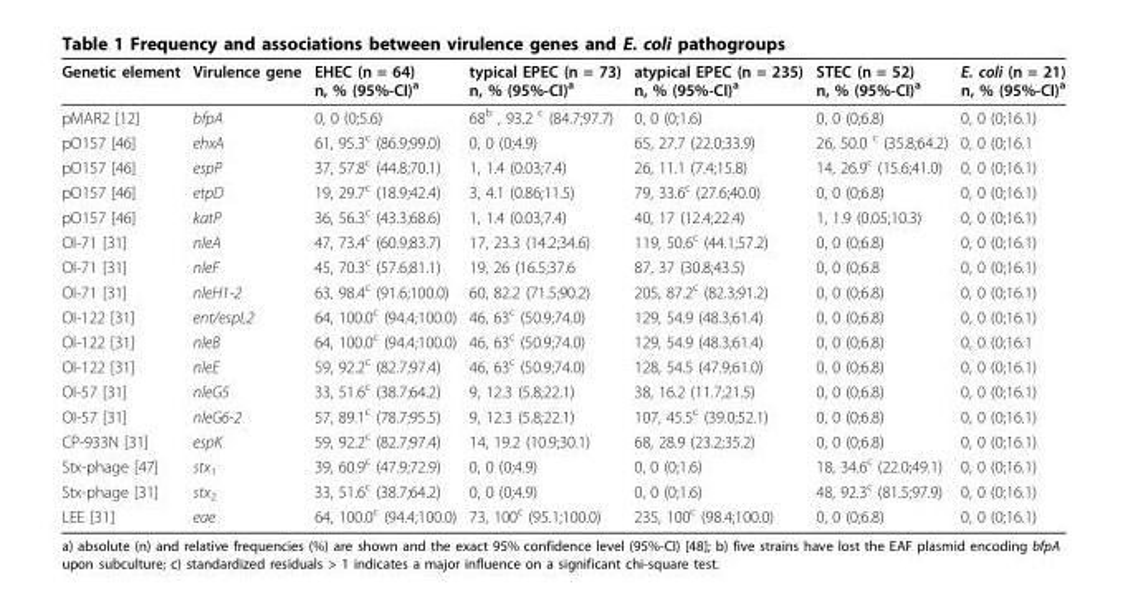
<table><thead><tr><td>Genetic element</td><td>Virulence gene</td><td>EHEC (n = 64) n, % (95%-CI)<sup>a</sup></td><td>typical EPEC (n = 73) n, % (95%-CI)<sup>a</sup></td><td>atypical EPEC (n = 235) n, % (95%-CI)<sup>a</sup></td><td>STEC (n = 52) n, % (95%-CI)<sup>a</sup></td><td>E. coli (n = 21) n, % (95%-CI)<sup>a</sup></td></tr></thead><tbody><tr><td>pMAR2 [12]</td><td>bfpA</td><td>0, 0 (0;5.6)</td><td>68<sup>b</sup> , 93.2 <sup>c</sup> (84.7;97.7)</td><td>0, 0 (0;1.6)</td><td>0, 0 (0;6.8)</td><td>0, 0 (0;16.1)</td></tr><tr><td>pO157 [46]</td><td>ehxA</td><td>61, 95.3<sup>c</sup> (86.9;99.0)</td><td>0, 0 (0;4.9)</td><td>65, 27.7 (22.0;33.9)</td><td>26, 50.0 <sup>c</sup> (35.8;64.2)</td><td>0, 0 (0;16.1</td></tr><tr><td>pO157 [46]</td><td>espP</td><td>37, 57.8<sup>c</sup> (44.8;70.1)</td><td>1, 1.4 (0.03;7.4)</td><td>26, 11.1 (7.4;15.8)</td><td>14, 26.9<sup>c</sup> (15.6;41.0)</td><td>0, 0 (0;16.1)</td></tr><tr><td>pO157 [46]</td><td>etpD</td><td>19, 29.7<sup>c</sup> (18.9;42.4)</td><td>3, 4.1 (0.86;11.5)</td><td>79, 33.6<sup>c</sup> (27.6;40.0)</td><td>0, 0 (0;6.8)</td><td>0, 0 (0;16.1)</td></tr><tr><td>pO157 [46]</td><td>katP</td><td>36, 56.3<sup>c</sup> (43.3;68.6)</td><td>1, 1.4 (0.03;7.4)</td><td>40, 17 (12.4;22.4)</td><td>1, 1.9 (0.05;10.3)</td><td>0, 0 (0;16.1)</td></tr><tr><td>OI-71 [31]</td><td>nleA</td><td>47, 73.4<sup>c</sup> (60.9;83.7)</td><td>17, 23.3 (14.2;34.6)</td><td>119, 50.6<sup>c</sup> (44.1;57.2)</td><td>0, 0 (0;6.8)</td><td>0, 0 (0;16.1)</td></tr><tr><td>OI-71 [31]</td><td>nleF</td><td>45, 70.3<sup>c</sup> (57.6;81.1)</td><td>19, 26 (16.5;37.6</td><td>87, 37 (30.8;43.5)</td><td>0, 0 (0;6.8</td><td>0, 0 (0;16.1)</td></tr><tr><td>OI-71 [31]</td><td>nleH1-2</td><td>63, 98.4<sup>c</sup> (91.6;100.0)</td><td>60, 82.2 (71.5;90.2)</td><td>205, 87.2<sup>c</sup> (82.3;91.2)</td><td>0, 0 (0;6.8)</td><td>0, 0 (0;16.1)</td></tr><tr><td>OI-122 [31]</td><td>ent/espL2</td><td>64, 100.0<sup>c</sup> (94.4;100.0)</td><td>46, 63<sup>c</sup> (50.9;74.0)</td><td>129, 54.9 (48.3;61.4)</td><td>0, 0 (0;6.8)</td><td>0, 0 (0;16.1)</td></tr><tr><td>OI-122 [31]</td><td>nleB</td><td>64, 100.0<sup>c</sup> (94.4;100.0)</td><td>46, 63<sup>c</sup> (50.9;74.0)</td><td>129, 54.9 (48.3;61.4)</td><td>0, 0 (0;6.8)</td><td>0, 0 (0;16.1</td></tr><tr><td>OI-122 [31]</td><td>nleE</td><td>59, 92.2<sup>c</sup> (82.7;97.4)</td><td>46, 63<sup>c</sup> (50.9;74.0)</td><td>128, 54.5 (47.9;61.0)</td><td>0, 0 (0;6.8)</td><td>0, 0 (0;16.1)</td></tr><tr><td>OI-57 [31]</td><td>nleG5</td><td>33, 51.6<sup>c</sup> (38.7;64.2)</td><td>9, 12.3 (5.8;22.1)</td><td>38, 16.2 (11.7;21.5)</td><td>0, 0 (0;6.8)</td><td>0, 0 (0;16.1)</td></tr><tr><td>OI-57 [31]</td><td>nleG6-2</td><td>57, 89.1<sup>c</sup> (78.7;95.5)</td><td>9, 12.3 (5.8;22.1)</td><td>107, 45.5<sup>c</sup> (39.0;52.1)</td><td>0, 0 (0;6.8)</td><td>0, 0 (0;16.1)</td></tr><tr><td>CP-933N [31]</td><td>espK</td><td>59, 92.2<sup>c</sup> (82.7;97.4)</td><td>14, 19.2 (10.9;30.1)</td><td>68, 28.9 (23.2;35.2)</td><td>0, 0 (0;6.8)</td><td>0, 0 (0;16.1)</td></tr><tr><td>Stx-phage [47]</td><td>stx<sub>1</sub></td><td>39, 60.9<sup>c</sup> (47.9;72.9)</td><td>0, 0 (0;4.9)</td><td>0, 0 (0;1.6)</td><td>18, 34.6<sup>c</sup> (22.0;49.1)</td><td>0, 0 (0;16.1)</td></tr><tr><td>Stx-phage [31]</td><td>stx<sub>2</sub></td><td>33, 51.6<sup>c</sup> (38.7;64.2)</td><td>0, 0 (0;4.9)</td><td>0, 0 (0;1.6)</td><td>48, 92.3<sup>c</sup> (81.5;97.9)</td><td>0, 0 (0;16.1)</td></tr><tr><td>LEE [31]</td><td>eae</td><td>64, 100.0<sup>c</sup> (94.4;100.0)</td><td>73, 100<sup>c</sup> (95.1;100.0)</td><td>235, 100<sup>c</sup> (98.4;100.0)</td><td>0, 0 (0;6.8)</td><td>0, 0 (0;16.1)</td></tr></tbody></table>